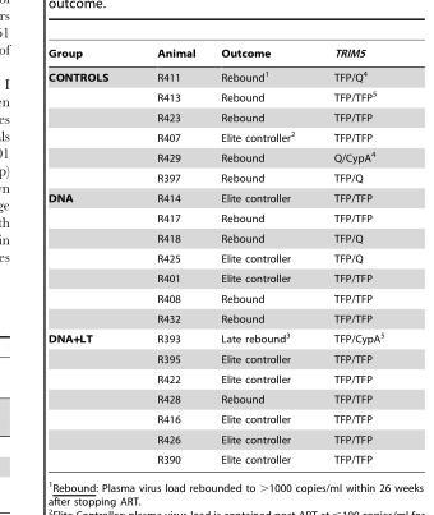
<table><thead><tr><td>Group</td><td>Animal</td><td>Outcome</td><td>TRIM5</td></tr></thead><tbody><tr><td rowspan="6">CONTROLS</td><td>R411</td><td>Rebound<sup>1</sup></td><td>TFP/Q<sup>4</sup></td></tr><tr><td>R413</td><td>Rebound</td><td>TFP/TFP<sup>5</sup></td></tr><tr><td>R423</td><td>Rebound</td><td>TFP/TFP</td></tr><tr><td>R407</td><td>Elite controller<sup>2</sup></td><td>TFP/TFP</td></tr><tr><td>R429</td><td>Rebound</td><td>Q/CypA<sup>4</sup></td></tr><tr><td>R397</td><td>Rebound</td><td>TFP/Q</td></tr><tr><td rowspan="7">DNA</td><td>R414</td><td>Elite controller</td><td>TFP/TFP</td></tr><tr><td>R417</td><td>Rebound</td><td>TFP/TFP</td></tr><tr><td>R418</td><td>Rebound</td><td>TFP/Q</td></tr><tr><td>R425</td><td>Elite controller</td><td>TFP/Q</td></tr><tr><td>R401</td><td>Elite controller</td><td>TFP/TFP</td></tr><tr><td>R408</td><td>Rebound</td><td>TFP/TFP</td></tr><tr><td>R432</td><td>Rebound</td><td>TFP/TFP</td></tr><tr><td rowspan="7">DNA+LT</td><td>R393</td><td>Late rebound<sup>3</sup></td><td>TFP/CypA<sup>5</sup></td></tr><tr><td>R395</td><td>Elite controller</td><td>TFP/TFP</td></tr><tr><td>R422</td><td>Elite controller</td><td>TFP/TFP</td></tr><tr><td>R428</td><td>Rebound</td><td>TFP/TFP</td></tr><tr><td>R416</td><td>Elite controller</td><td>TFP/TFP</td></tr><tr><td>R426</td><td>Elite controller</td><td>TFP/TFP</td></tr><tr><td>R390</td><td>Elite controller</td><td>TFP/TFP</td></tr></tbody></table>